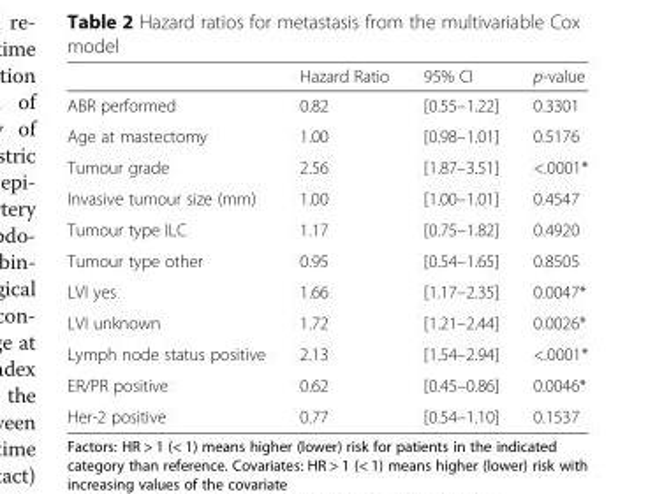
<table><thead><tr><td></td><td>Hazard Ratio</td><td>95% CI</td><td>p-value</td></tr></thead><tbody><tr><td>ABR performed</td><td>0.82</td><td>[0.55–1.22]</td><td>0.3301</td></tr><tr><td>Age at mastectomy</td><td>1.00</td><td>[0.98–1.01]</td><td>0.5176</td></tr><tr><td>Tumour grade</td><td>2.56</td><td>[1.87–3.51]</td><td>&lt;.0001*</td></tr><tr><td>Invasive tumour size (mm)</td><td>1.00</td><td>[1.00–1.01]</td><td>0.4547</td></tr><tr><td>Tumour type ILC</td><td>1.17</td><td>[0.75–1.82]</td><td>0.4920</td></tr><tr><td>Tumour type other</td><td>0.95</td><td>[0.54–1.65]</td><td>0.8505</td></tr><tr><td>LVI yes</td><td>1.66</td><td>[1.17–2.35]</td><td>0.0047*</td></tr><tr><td>LVI unknown</td><td>1.72</td><td>[1.21–2.44]</td><td>0.0026*</td></tr><tr><td>Lymph node status positive</td><td>2.13</td><td>[1.54–2.94]</td><td>&lt;.0001*</td></tr><tr><td>ER/PR positive</td><td>0.62</td><td>[0.45–0.86]</td><td>0.0046*</td></tr><tr><td>Her-2 positive</td><td>0.77</td><td>[0.54–1.10]</td><td>0.1537</td></tr></tbody></table>